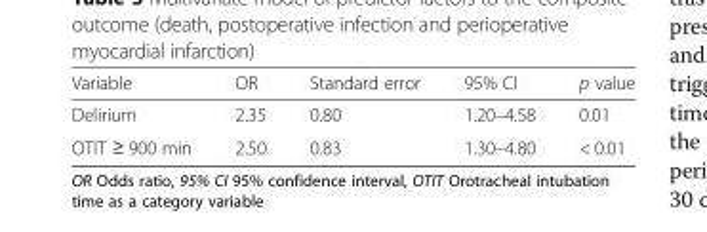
<table><thead><tr><td>Variable</td><td>OR</td><td>Standard error</td><td>95% CI</td><td>p value</td></tr></thead><tbody><tr><td>Delirium</td><td>2.35</td><td>0.80</td><td>1.20–4.58</td><td>0.01</td></tr><tr><td>OTIT ≥ 900 min</td><td>2.50</td><td>0.83</td><td>1.30–4.80</td><td>&lt; 0.01</td></tr></tbody></table>